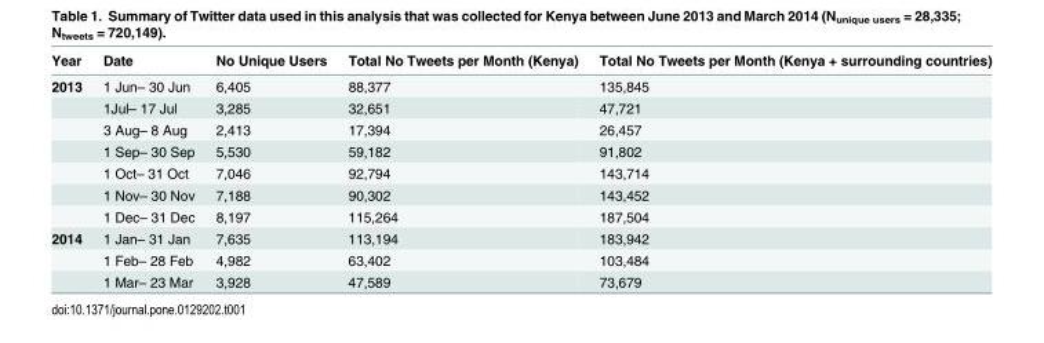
<table><thead><tr><td>Year</td><td>Date</td><td>No Unique Users</td><td>Total No Tweets per Month (Kenya)</td><td>Total No Tweets per Month (Kenya + surrounding countries)</td></tr></thead><tbody><tr><td rowspan="7">2013</td><td>1 Jun– 30 Jun</td><td>6,405</td><td>88,377</td><td>135,845</td></tr><tr><td>1Jul– 17 Jul</td><td>3,285</td><td>32,651</td><td>47,721</td></tr><tr><td>3 Aug– 8 Aug</td><td>2,413</td><td>17,394</td><td>26,457</td></tr><tr><td>1 Sep– 30 Sep</td><td>5,530</td><td>59,182</td><td>91,802</td></tr><tr><td>1 Oct– 31 Oct</td><td>7,046</td><td>92,794</td><td>143,714</td></tr><tr><td>1 Nov– 30 Nov</td><td>7,188</td><td>90,302</td><td>143,452</td></tr><tr><td>1 Dec– 31 Dec</td><td>8,197</td><td>115,264</td><td>187,504</td></tr><tr><td rowspan="3">2014</td><td>1 Jan– 31 Jan</td><td>7,635</td><td>113,194</td><td>183,942</td></tr><tr><td>1 Feb– 28 Feb</td><td>4,982</td><td>63,402</td><td>103,484</td></tr><tr><td>1 Mar– 23 Mar</td><td>3,928</td><td>47,589</td><td>73,679</td></tr></tbody></table>